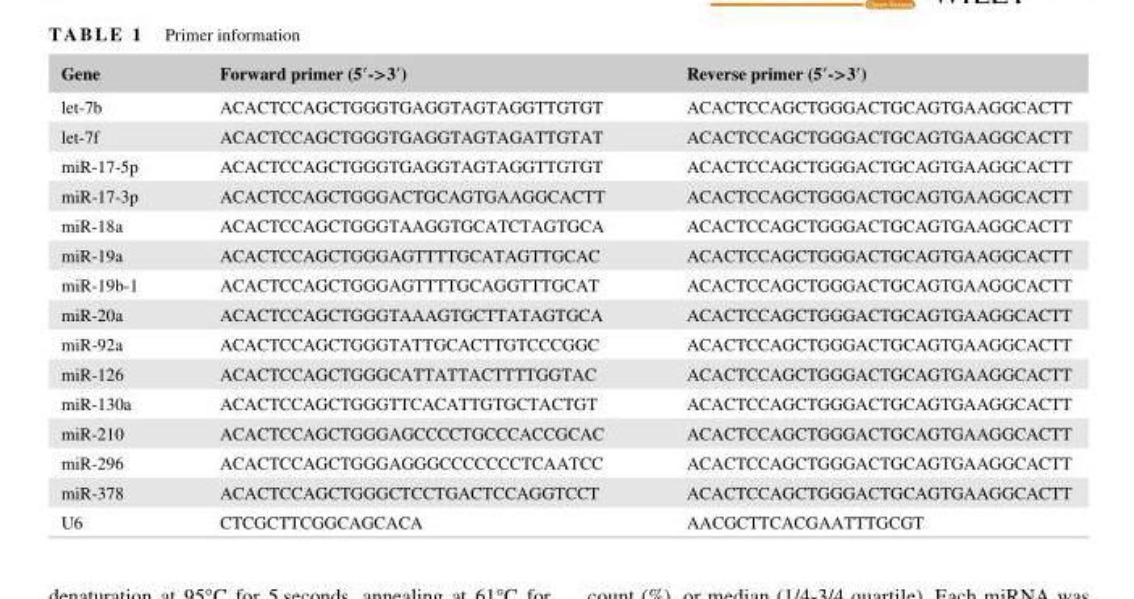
<table><thead><tr><td>Gene</td><td>Forward primer (5′- &gt;3′)</td><td>Reverse primer (5′- &gt;3′)</td></tr></thead><tbody><tr><td>let- 7b</td><td>ACACTCCAGCTGGGTGAGGTAGTAGGTTGTGT</td><td>ACACTCCAGCTGGGACTGCAGTGAAGGCACTT</td></tr><tr><td>let- 7f</td><td>ACACTCCAGCTGGGTGAGGTAGTAGATTGTAT</td><td>ACACTCCAGCTGGGACTGCAGTGAAGGCACTT</td></tr><tr><td>miR- 17- 5p</td><td>ACACTCCAGCTGGGTGAGGTAGTAGGTTGTGT</td><td>ACACTCCAGCTGGGACTGCAGTGAAGGCACTT</td></tr><tr><td>miR- 17- 3p</td><td>ACACTCCAGCTGGGACTGCAGTGAAGGCACTT</td><td>ACACTCCAGCTGGGACTGCAGTGAAGGCACTT</td></tr><tr><td>miR- 18a</td><td>ACACTCCAGCTGGGTAAGGTGCATCTAGTGCA</td><td>ACACTCCAGCTGGGACTGCAGTGAAGGCACTT</td></tr><tr><td>miR- 19a</td><td>ACACTCCAGCTGGGAGTTTTGCATAGTTGCAC</td><td>ACACTCCAGCTGGGACTGCAGTGAAGGCACTT</td></tr><tr><td>miR- 19b- 1</td><td>ACACTCCAGCTGGGAGTTTTGCAGGTTTGCAT</td><td>ACACTCCAGCTGGGACTGCAGTGAAGGCACTT</td></tr><tr><td>miR- 20a</td><td>ACACTCCAGCTGGGTAAAGTGCTTATAGTGCA</td><td>ACACTCCAGCTGGGACTGCAGTGAAGGCACTT</td></tr><tr><td>miR- 92a</td><td>ACACTCCAGCTGGGTATTGCACTTGTCCCGGC</td><td>ACACTCCAGCTGGGACTGCAGTGAAGGCACTT</td></tr><tr><td>miR- 126</td><td>ACACTCCAGCTGGGCATTATTACTTTTGGTAC</td><td>ACACTCCAGCTGGGACTGCAGTGAAGGCACTT</td></tr><tr><td>miR- 130a</td><td>ACACTCCAGCTGGGTTCACATTGTGCTACTGT</td><td>ACACTCCAGCTGGGACTGCAGTGAAGGCACTT</td></tr><tr><td>miR- 210</td><td>ACACTCCAGCTGGGAGCCCCTGCCCACCGCAC</td><td>ACACTCCAGCTGGGACTGCAGTGAAGGCACTT</td></tr><tr><td>miR- 296</td><td>ACACTCCAGCTGGGAGGGCCCCCCCTCAATCC</td><td>ACACTCCAGCTGGGACTGCAGTGAAGGCACTT</td></tr><tr><td>miR- 378</td><td>ACACTCCAGCTGGGCTCCTGACTCCAGGTCCT</td><td>ACACTCCAGCTGGGACTGCAGTGAAGGCACTT</td></tr><tr><td>U6</td><td>CTCGCTTCGGCAGCACA</td><td>AACGCTTCACGAATTTGCGT</td></tr></tbody></table>